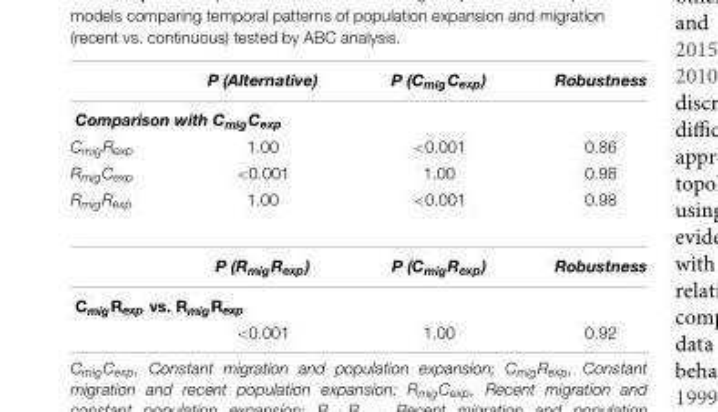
<table><thead><tr><td></td><td>P (Alternative)</td><td>P (C<sub>mig</sub>C<sub>exp</sub>)</td><td>Robustness</td></tr></thead><tbody><tr><td colspan="4">Comparison with C<sub>mig</sub>C<sub>exp</sub></td></tr><tr><td>C<sub>mig</sub>R<sub>exp</sub></td><td>1.00</td><td>&lt;0.001</td><td>0.86</td></tr><tr><td>R<sub>mig</sub>C<sub>exp</sub></td><td>&lt;0.001</td><td>1.00</td><td>0.98</td></tr><tr><td rowspan="2">R<sub>mig</sub>R<sub>exp</sub></td><td>1.00</td><td>&lt;0.001</td><td>0.98</td></tr><tr><td>P (R<sub>mig</sub>R<sub>exp</sub>)</td><td>P (C<sub>mig</sub>R<sub>exp</sub>)</td><td>Robustness</td></tr><tr><td colspan="4">C<sub>mig</sub>R<sub>exp</sub> vs. R<sub>mig</sub>R<sub>exp</sub></td></tr><tr><td></td><td>&lt;0.001</td><td>1.00</td><td>0.92</td></tr></tbody></table>